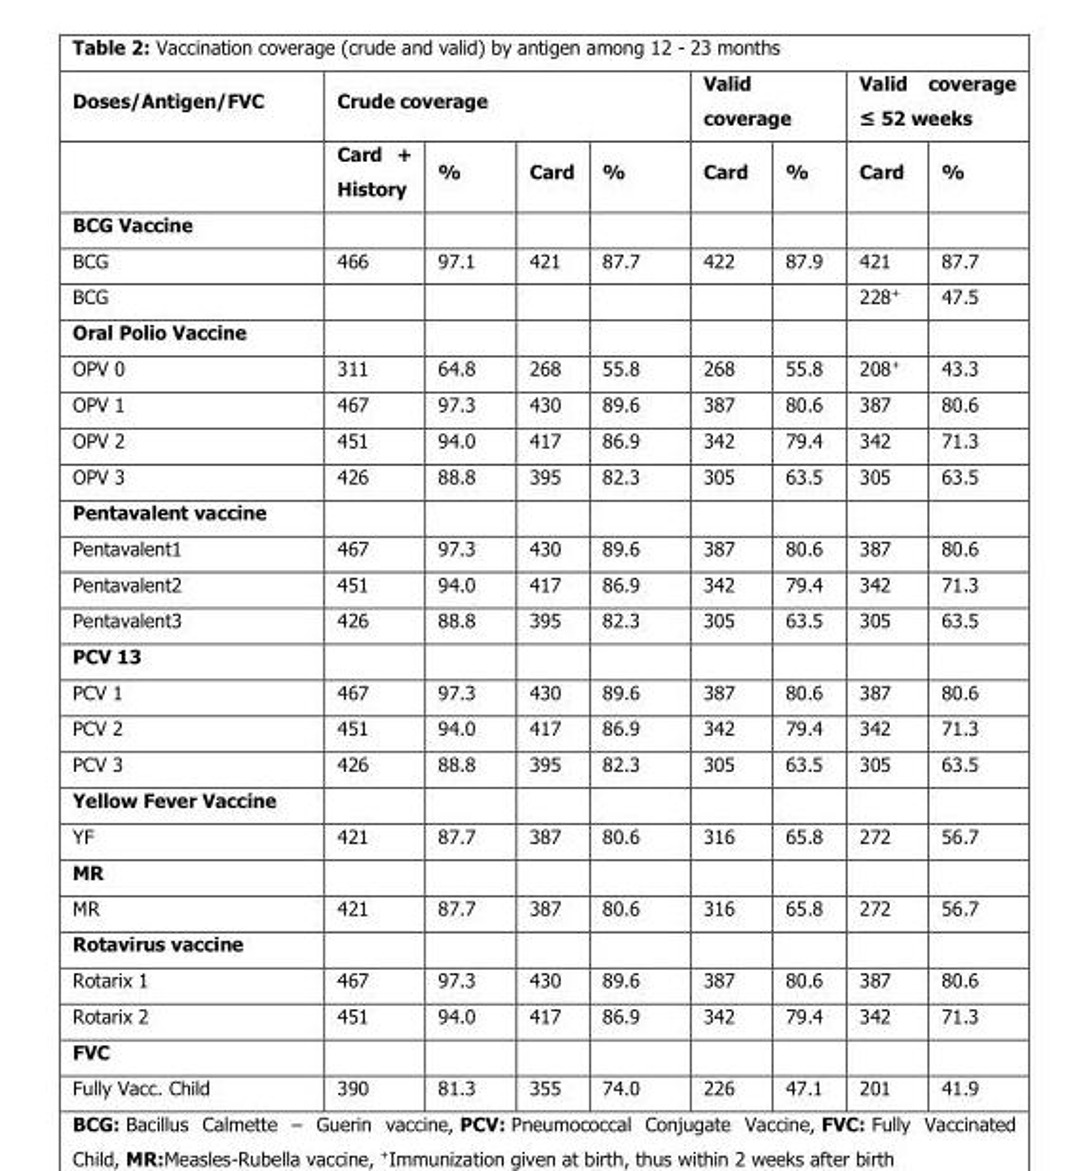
<table><thead><tr><td rowspan="2">Doses/Antigen/FVC</td><td colspan="4">Crude coverage</td><td colspan="2">Valid coverage</td><td colspan="2">Valid coverage ≤ 52 weeks</td></tr><tr><td>Card + History</td><td>%</td><td>Card</td><td>%</td><td>Card</td><td>%</td><td>Card</td><td>%</td></tr></thead><tbody><tr><td colspan="9">BCG Vaccine</td></tr><tr><td>BCG</td><td>466</td><td>97.1</td><td>421</td><td>87.7</td><td>422</td><td>87.9</td><td>421</td><td>87.7</td></tr><tr><td>BCG</td><td></td><td></td><td></td><td></td><td></td><td></td><td>228+</td><td>47.5</td></tr><tr><td colspan="9">Oral Polio Vaccine</td></tr><tr><td>OPV 0</td><td>311</td><td>64.8</td><td>268</td><td>55.8</td><td>268</td><td>55.8</td><td>208+</td><td>43.3</td></tr><tr><td>OPV 1</td><td>467</td><td>97.3</td><td>430</td><td>89.6</td><td>387</td><td>80.6</td><td>387</td><td>80.6</td></tr><tr><td>OPV 2</td><td>451</td><td>94.0</td><td>417</td><td>86.9</td><td>342</td><td>79.4</td><td>342</td><td>71.3</td></tr><tr><td>OPV 3</td><td>426</td><td>88.8</td><td>395</td><td>82.3</td><td>305</td><td>63.5</td><td>305</td><td>63.5</td></tr><tr><td colspan="9">Pentavalent vaccine</td></tr><tr><td>Pentavalent1</td><td>467</td><td>97.3</td><td>430</td><td>89.6</td><td>387</td><td>80.6</td><td>387</td><td>80.6</td></tr><tr><td>Pentavalent2</td><td>451</td><td>94.0</td><td>417</td><td>86.9</td><td>342</td><td>79.4</td><td>342</td><td>71.3</td></tr><tr><td>Pentavalent3</td><td>426</td><td>88.8</td><td>395</td><td>82.3</td><td>305</td><td>63.5</td><td>305</td><td>63.5</td></tr><tr><td colspan="9">PCV 13</td></tr><tr><td>PCV 1</td><td>467</td><td>97.3</td><td>430</td><td>89.6</td><td>387</td><td>80.6</td><td>387</td><td>80.6</td></tr><tr><td>PCV 2</td><td>451</td><td>94.0</td><td>417</td><td>86.9</td><td>342</td><td>79.4</td><td>342</td><td>71.3</td></tr><tr><td>PCV 3</td><td>426</td><td>88.8</td><td>395</td><td>82.3</td><td>305</td><td>63.5</td><td>305</td><td>63.5</td></tr><tr><td colspan="9">Yellow Fever Vaccine</td></tr><tr><td>YF</td><td>421</td><td>87.7</td><td>387</td><td>80.6</td><td>316</td><td>65.8</td><td>272</td><td>56.7</td></tr><tr><td colspan="9">MR</td></tr><tr><td>MR</td><td>421</td><td>87.7</td><td>387</td><td>80.6</td><td>316</td><td>65.8</td><td>272</td><td>56.7</td></tr><tr><td colspan="9">Rotavirus vaccine</td></tr><tr><td>Rotarix 1</td><td>467</td><td>97.3</td><td>430</td><td>89.6</td><td>387</td><td>80.6</td><td>387</td><td>80.6</td></tr><tr><td>Rotarix 2</td><td>451</td><td>94.0</td><td>417</td><td>86.9</td><td>342</td><td>79.4</td><td>342</td><td>71.3</td></tr><tr><td colspan="9">FVC</td></tr><tr><td>Fully Vacc. Child</td><td>390</td><td>81.3</td><td>355</td><td>74.0</td><td>226</td><td>47.1</td><td>201</td><td>41.9</td></tr></tbody></table>